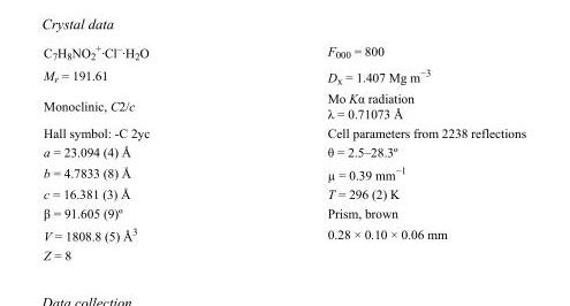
<table><tbody><tr><td>C<sub>7</sub>H<sub>8</sub>NO<sub>2</sub> <sup>+</sup>·Cl<sup>–</sup>·H<sub>2</sub>O</td><td>F000 = 800</td></tr><tr><td>M<sub>r</sub> = 191.61</td><td>D<sub>x</sub> = 1.407 Mg m<sup>−3</sup></td></tr><tr><td>Monoclinic, C2/c</td><td>Mo Kα radiation λ = 0.71073 Å</td></tr><tr><td>Hall symbol: -C 2yc</td><td>Cell parameters from 2238 reflections</td></tr><tr><td>a = 23.094 (4) Å</td><td>θ = 2.5–28.3º</td></tr><tr><td>b = 4.7833 (8) Å</td><td>µ = 0.39 mm<sup>−1</sup></td></tr><tr><td>c = 16.381 (3) Å</td><td>T = 296 (2) K</td></tr><tr><td>β = 91.605 (9)º</td><td>Prism, brown</td></tr><tr><td>V = 1808.8 (5) Å<sup>3</sup></td><td>0.28 × 0.10 × 0.06 mm</td></tr><tr><td>Z = 8</td><td></td></tr></tbody></table>